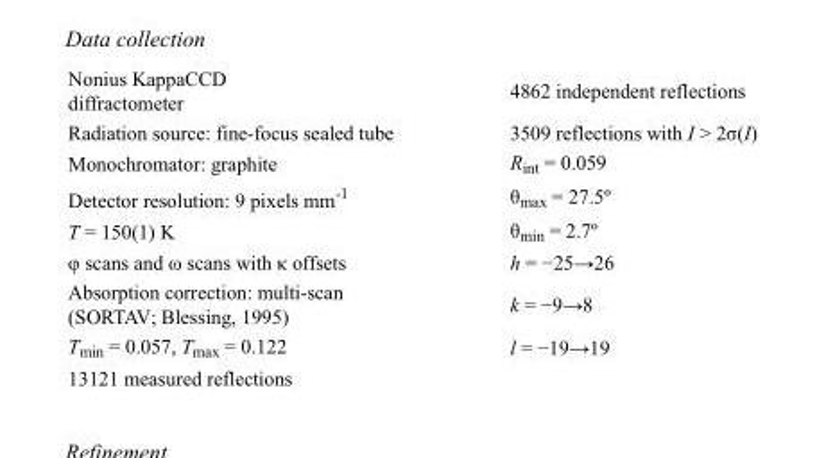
<table><tbody><tr><td>Nonius KappaCCD diffractometer</td><td>4862 independent reflections</td></tr><tr><td>Radiation source: fine-focus sealed tube</td><td>3509 reflections with I &gt; 2σ(I)</td></tr><tr><td>Monochromator: graphite</td><td>R<sub>int</sub> = 0.059</td></tr><tr><td>Detector resolution: 9 pixels mm<sup>-1</sup></td><td>θ<sub>max</sub> = 27.5º</td></tr><tr><td>T = 150(1) K</td><td>θ<sub>min</sub> = 2.7º</td></tr><tr><td>φ scans and ω scans with κ offsets</td><td>h = −25→26</td></tr><tr><td>Absorption correction: multi-scan (SORTAV; Blessing, 1995)</td><td>k = −9→8</td></tr><tr><td>T<sub>min</sub> = 0.057, T<sub>max</sub> = 0.122</td><td>l = −19→19</td></tr><tr><td>13121 measured reflections</td><td></td></tr></tbody></table>